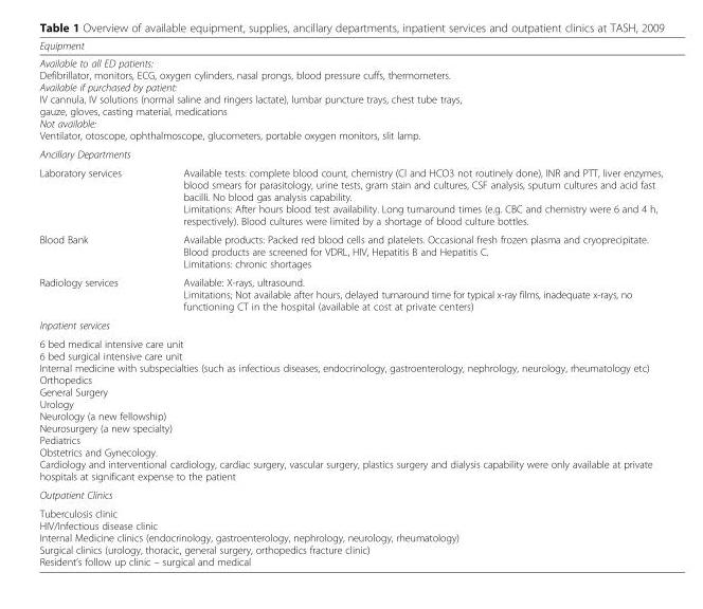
<table><thead><tr><td rowspan="3" colspan="2">Equipment Available to all ED patients: Defibrillator, monitors, ECG, oxygen cylinders, nasal prongs, blood pressure cuffs, thermometers. Available if purchased by patient: IV cannula, IV solutions (normal saline and ringers lactate), lumbar puncture trays, chest tube trays, gauze, gloves, casting material, medications Not available: Ventilator, otoscope, ophthalmoscope, glucometers, portable oxygen monitors, slit lamp. Ancillary Departments</td></tr><tr></tr><tr></tr><tr><td>Laboratory services</td><td>Available tests: complete blood count, chemistry (Cl and HCO3 not routinely done), INR and PTT, liver enzymes, blood smears for parasitology, urine tests, gram stain and cultures, CSF analysis, sputum cultures and acid fast bacilli. No blood gas analysis capability. Limitations: After hours blood test availability. Long turnaround times (e.g. CBC and chemistry were 6 and 4 h, respectively). Blood cultures were limited by a shortage of blood culture bottles.</td></tr></thead><tbody><tr><td>Blood Bank</td><td>Available products: Packed red blood cells and platelets. Occasional fresh frozen plasma and cryoprecipitate. Blood products are screened for VDRL, HIV, Hepatitis B and Hepatitis C. Limitations: chronic shortages</td></tr><tr><td>Radiology services</td><td>Available: X-rays, ultrasound. Limitations; Not available after hours, delayed turnaround time for typical x-ray films, inadequate x-rays, no functioning CT in the hospital (available at cost at private centers)</td></tr><tr><td colspan="2">Inpatient services</td></tr><tr><td colspan="2">6 bed medical intensive care unit 6 bed surgical intensive care unit Internal medicine with subspecialties (such as infectious diseases, endocrinology, gastroenterology, nephrology, neurology, rheumatology etc) Orthopedics General Surgery Urology Neurology (a new fellowship) Neurosurgery (a new specialty) Pediatrics Obstetrics and Gynecology. Cardiology and interventional cardiology, cardiac surgery, vascular surgery, plastics surgery and dialysis capability were only available at private hospitals at significant expense to the patient</td></tr><tr><td colspan="2">Outpatient Clinics</td></tr><tr><td colspan="2">Tuberculosis clinic HIV/Infectious disease clinic Internal Medicine clinics (endocrinology, gastroenterology, nephrology, neurology, rheumatology) Surgical clinics (urology, thoracic, general surgery, orthopedics fracture clinic) Resident’s follow up clinic – surgical and medical</td></tr></tbody></table>